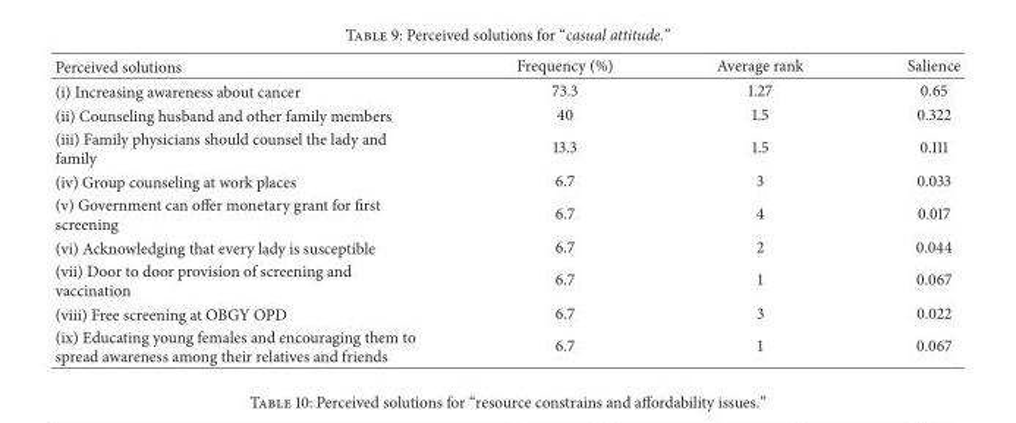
<table><thead><tr><td>Perceived solutions</td><td>Frequency (%)</td><td>Average rank</td><td>Salience</td></tr></thead><tbody><tr><td>(i) Increasing awareness about cancer</td><td>73.3</td><td>1.27</td><td>0.65</td></tr><tr><td>(ii) Counseling husband and other family members</td><td>40</td><td>1.5</td><td>0.322</td></tr><tr><td>(iii) Family physicians should counsel the lady and family</td><td>13.3</td><td>1.5</td><td>0.111</td></tr><tr><td>(iv) Group counseling at work places</td><td>6.7</td><td>3</td><td>0.033</td></tr><tr><td>(v) Government can offer monetary grant for first screening</td><td>6.7</td><td>4</td><td>0.017</td></tr><tr><td>(vi) Acknowledging that every lady is susceptible</td><td>6.7</td><td>2</td><td>0.044</td></tr><tr><td>(vii) Door to door provision of screening and vaccination</td><td>6.7</td><td>1</td><td>0.067</td></tr><tr><td>(viii) Free screening at OBGY OPD</td><td>6.7</td><td>3</td><td>0.022</td></tr><tr><td>(ix) Educating young females and encouraging them to spread awareness among their relatives and friends</td><td>6.7</td><td>1</td><td>0.067</td></tr></tbody></table>